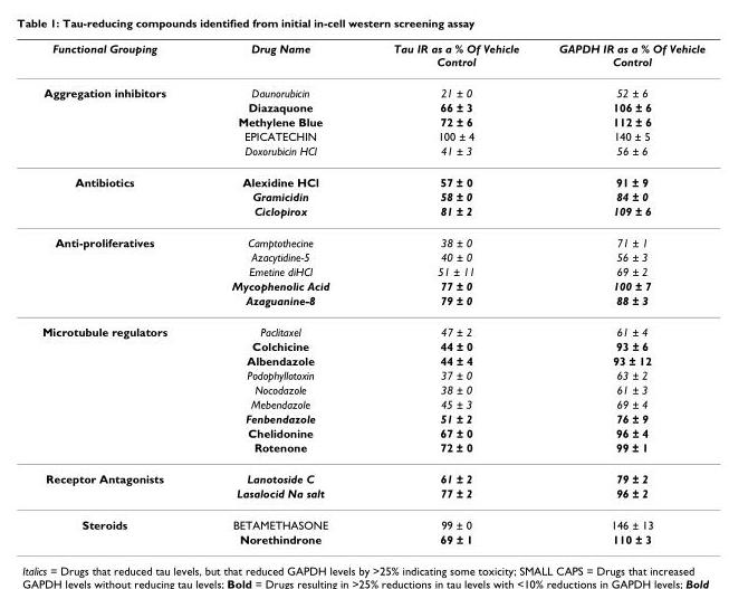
<table><thead><tr><td>Functional Grouping</td><td>Drug Name</td><td>Tau IR as a % Of Vehicle Control</td><td>GAPDH IR as a % Of Vehicle Control</td></tr></thead><tbody><tr><td rowspan="5">Aggregation inhibitors</td><td>Daunorubicin</td><td>21 ± 0</td><td>52 ± 6</td></tr><tr><td>Diazaquone</td><td>66 ± 3</td><td>106 ± 6</td></tr><tr><td>Methylene Blue</td><td>72 ± 6</td><td>112 ± 6</td></tr><tr><td>EPICATECHIN</td><td>100 ± 4</td><td>140 ± 5</td></tr><tr><td>Doxorubicin HCl</td><td>41 ± 3</td><td>56 ± 6</td></tr><tr><td rowspan="3">Antibiotics</td><td>Alexidine HCl</td><td>57 ± 0</td><td>91 ± 9</td></tr><tr><td>Gramicidin</td><td>58 ± 0</td><td>84 ± 0</td></tr><tr><td>Ciclopirox</td><td>81 ± 2</td><td>109 ± 6</td></tr><tr><td rowspan="5">Anti-proliferatives</td><td>Camptothecine</td><td>38 ± 0</td><td>71 ± 1</td></tr><tr><td>Azacytidine-5</td><td>40 ± 0</td><td>56 ± 3</td></tr><tr><td>Emetine diHCl</td><td>51 ± 11</td><td>69 ± 2</td></tr><tr><td>Mycophenolic Acid</td><td>77 ± 0</td><td>100 ± 7</td></tr><tr><td>Azaguanine-8</td><td>79 ± 0</td><td>88 ± 3</td></tr><tr><td rowspan="9">Microtubule regulators</td><td>Paclitaxel</td><td>47 ± 2</td><td>61 ± 4</td></tr><tr><td>Colchicine</td><td>44 ± 0</td><td>93 ± 6</td></tr><tr><td>Albendazole</td><td>44 ± 4</td><td>93 ± 12</td></tr><tr><td>Podophyllotoxin</td><td>37 ± 0</td><td>63 ± 2</td></tr><tr><td>Nocodazole</td><td>38 ± 0</td><td>61 ± 3</td></tr><tr><td>Mebendazole</td><td>45 ± 3</td><td>69 ± 4</td></tr><tr><td>Fenbendazole</td><td>51 ± 2</td><td>76 ± 9</td></tr><tr><td>Chelidonine</td><td>67 ± 0</td><td>96 ± 4</td></tr><tr><td>Rotenone</td><td>72 ± 0</td><td>99 ± 1</td></tr><tr><td rowspan="2">Receptor Antagonists</td><td>Lanotoside C</td><td>61 ± 2</td><td>79 ± 2</td></tr><tr><td>Lasalocid Na salt</td><td>77 ± 2</td><td>96 ± 2</td></tr><tr><td rowspan="2">Steroids</td><td>BETAMETHASONE</td><td>99 ± 0</td><td>146 ± 13</td></tr><tr><td>Norethindrone</td><td>69 ± 1</td><td>110 ± 3</td></tr></tbody></table>